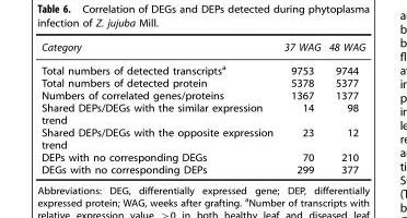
<table><thead><tr><td>Category</td><td>37 WAG</td><td>48 WAG</td></tr></thead><tbody><tr><td>Total numbers of detected transcripts<sup>a</sup></td><td>9753</td><td>9744</td></tr><tr><td>Total numbers of detected protein</td><td>5378</td><td>5377</td></tr><tr><td>Numbers of correlated genes/proteins</td><td>1367</td><td>1377</td></tr><tr><td>Shared DEPs/DEGs with the similar expression trend</td><td>14</td><td>98</td></tr><tr><td>Shared DEPs/DEGs with the opposite expression trend</td><td>23</td><td>12</td></tr><tr><td>DEPs with no corresponding DEGs</td><td>70</td><td>210</td></tr><tr><td>DEGs with no corresponding DEPs</td><td>299</td><td>377</td></tr></tbody></table>